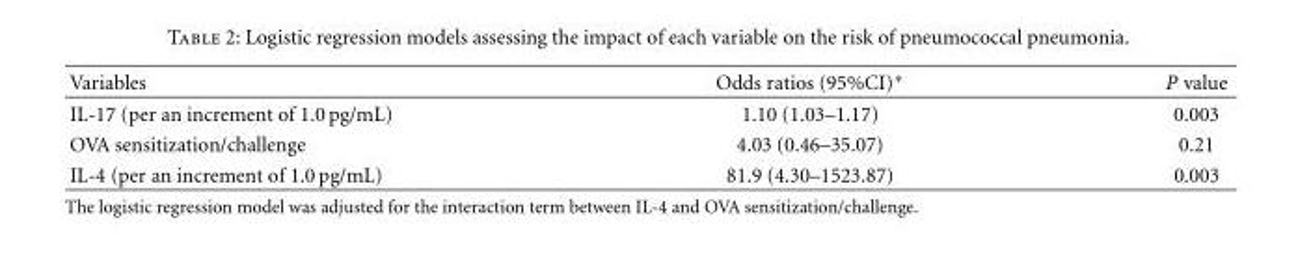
<table><thead><tr><td>Variables</td><td>Odds ratios (95%CI)∗</td><td>P value</td></tr></thead><tbody><tr><td>IL-17 (per an increment of 1.0 pg/mL)</td><td>1.10 (1.03–1.17)</td><td>0.003</td></tr><tr><td>OVA sensitization/challenge</td><td>4.03 (0.46–35.07)</td><td>0.21</td></tr><tr><td>IL-4 (per an increment of 1.0 pg/mL)</td><td>81.9 (4.30–1523.87)</td><td>0.003</td></tr></tbody></table>